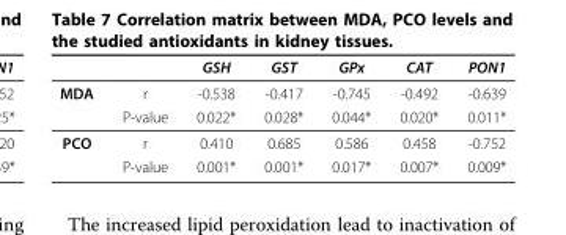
<table><thead><tr><td></td><td></td><td>GSH</td><td>GST</td><td>GPx</td><td>CAT</td><td>PON1</td></tr></thead><tbody><tr><td rowspan="2">MDA</td><td>r</td><td>-0.538</td><td>-0.417</td><td>-0.745</td><td>-0.492</td><td>-0.639</td></tr><tr><td>P-value</td><td>0.022*</td><td>0.028*</td><td>0.044*</td><td>0.020*</td><td>0.011*</td></tr><tr><td rowspan="2">PCO</td><td>r</td><td>0.410</td><td>0.685</td><td>0.586</td><td>0.458</td><td>-0.752</td></tr><tr><td>P-value</td><td>0.001*</td><td>0.001*</td><td>0.017*</td><td>0.007*</td><td>0.009*</td></tr></tbody></table>